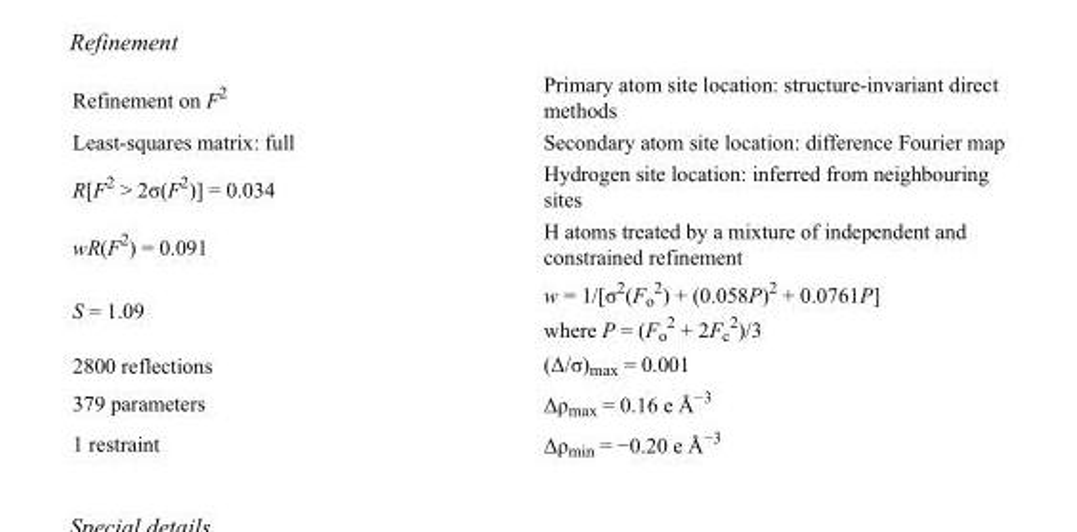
<table><tbody><tr><td>Refinement on F<sup>2</sup></td><td>Primary atom site location: structure-invariant direct methods</td></tr><tr><td>Least-squares matrix: full</td><td>Secondary atom site location: difference Fourier map</td></tr><tr><td>R[F<sup>2</sup> &gt; 2σ(F<sup>2</sup>)] = 0.034</td><td>Hydrogen site location: inferred from neighbouring sites</td></tr><tr><td>wR(F<sup>2</sup>) = 0.091</td><td>H atoms treated by a mixture of independent and constrained refinement</td></tr><tr><td>S = 1.09</td><td>w = 1/[σ<sup>2</sup>(F<sub>o</sub> <sup>2</sup>) + (0.058P)<sup>2</sup> + 0.0761P] where P = (F<sub>o</sub> <sup>2</sup> + 2F<sub>c</sub> <sup>2</sup>)/3</td></tr><tr><td>2800 reflections</td><td>(Δ/σ)<sub>max</sub> = 0.001</td></tr><tr><td>379 parameters</td><td>Δρ<sub>max</sub> = 0.16 e Å<sup>−3</sup></td></tr><tr><td>1 restraint</td><td>Δρ<sub>min</sub> = −0.20 e Å<sup>−3</sup></td></tr></tbody></table>